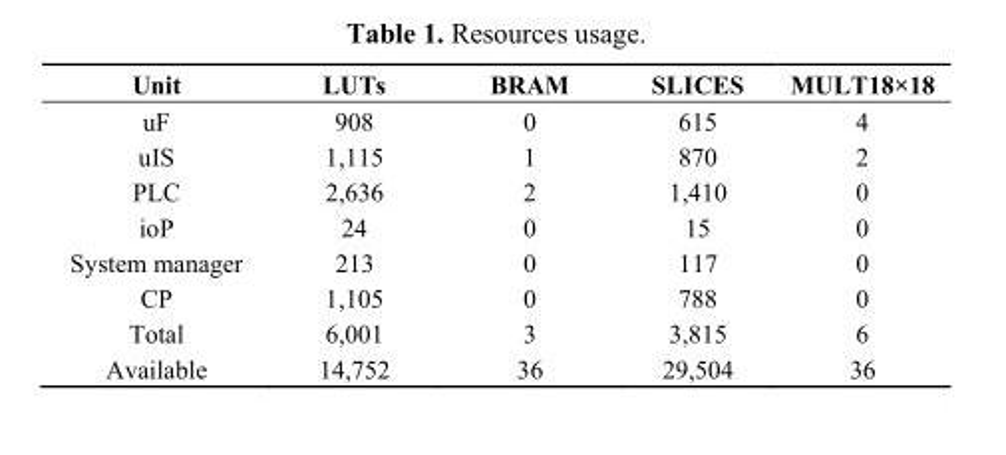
<table><thead><tr><td>Unit</td><td>LUTs</td><td>BRAM</td><td>SLICES</td><td>MULT18×18</td></tr></thead><tbody><tr><td>uF</td><td>908</td><td>0</td><td>615</td><td>4</td></tr><tr><td>uIS</td><td>1,115</td><td>1</td><td>870</td><td>2</td></tr><tr><td>PLC</td><td>2,636</td><td>2</td><td>1,410</td><td>0</td></tr><tr><td>ioP</td><td>24</td><td>0</td><td>15</td><td>0</td></tr><tr><td>System manager</td><td>213</td><td>0</td><td>117</td><td>0</td></tr><tr><td>CP</td><td>1,105</td><td>0</td><td>788</td><td>0</td></tr><tr><td>Total</td><td>6,001</td><td>3</td><td>3,815</td><td>6</td></tr><tr><td>Available</td><td>14,752</td><td>36</td><td>29,504</td><td>36</td></tr></tbody></table>